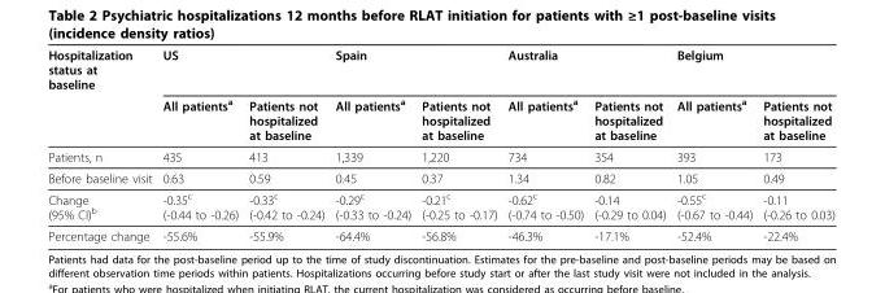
<table><thead><tr><td rowspan="2">Hospitalization status at baseline</td><td colspan="2">US</td><td colspan="2">Spain</td><td colspan="2">Australia</td><td colspan="2">Belgium</td></tr><tr><td>All patients<sup>a</sup></td><td>Patients not hospitalized at baseline</td><td>All patients<sup>a</sup></td><td>Patients not hospitalized at baseline</td><td>All patients<sup>a</sup></td><td>Patients not hospitalized at baseline</td><td>All patients<sup>a</sup></td><td>Patients not hospitalized at baseline</td></tr></thead><tbody><tr><td>Patients, n</td><td>435</td><td>413</td><td>1,339</td><td>1,220</td><td>734</td><td>354</td><td>393</td><td>173</td></tr><tr><td>Before baseline visit</td><td>0.63</td><td>0.59</td><td>0.45</td><td>0.37</td><td>1.34</td><td>0.82</td><td>1.05</td><td>0.49</td></tr><tr><td>Change (95% CI)<sup>b</sup></td><td>-0.35<sup>c</sup> (-0.44 to -0.26)</td><td>-0.33<sup>c</sup> (-0.42 to -0.24)</td><td>-0.29<sup>c</sup> (-0.33 to -0.24)</td><td>-0.21<sup>c</sup> (-0.25 to -0.17)</td><td>-0.62<sup>c</sup> (-0.74 to -0.50)</td><td>-0.14 (-0.29 to 0.04)</td><td>-0.55<sup>c</sup> (-0.67 to -0.44)</td><td>-0.11 (-0.26 to 0.03)</td></tr><tr><td>Percentage change</td><td>-55.6%</td><td>-55.9%</td><td>-64.4%</td><td>-56.8%</td><td>-46.3%</td><td>-17.1%</td><td>-52.4%</td><td>-22.4%</td></tr></tbody></table>